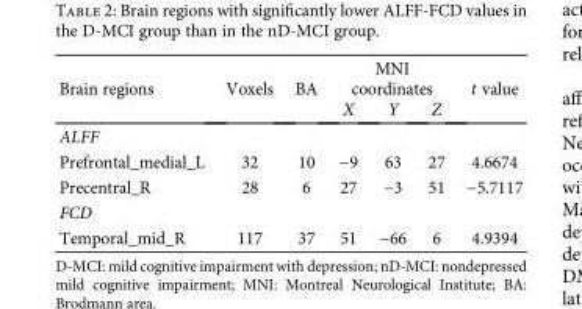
<table><thead><tr><td rowspan="2">Brain regions</td><td rowspan="2">Voxels</td><td rowspan="2">BA</td><td colspan="3">MNI coordinates</td><td rowspan="2">t value</td></tr><tr><td>X</td><td>Y</td><td>Z</td></tr></thead><tbody><tr><td colspan="7">ALFF</td></tr><tr><td>Prefrontal_medial_L</td><td>32</td><td>10</td><td>−9</td><td>63</td><td>27</td><td>4.6674</td></tr><tr><td>Precentral_R</td><td>28</td><td>6</td><td>27</td><td>−3</td><td>51</td><td>−5.7117</td></tr><tr><td colspan="7">FCD</td></tr><tr><td>Temporal_mid_R</td><td>117</td><td>37</td><td>51</td><td>−66</td><td>6</td><td>4.9394</td></tr></tbody></table>